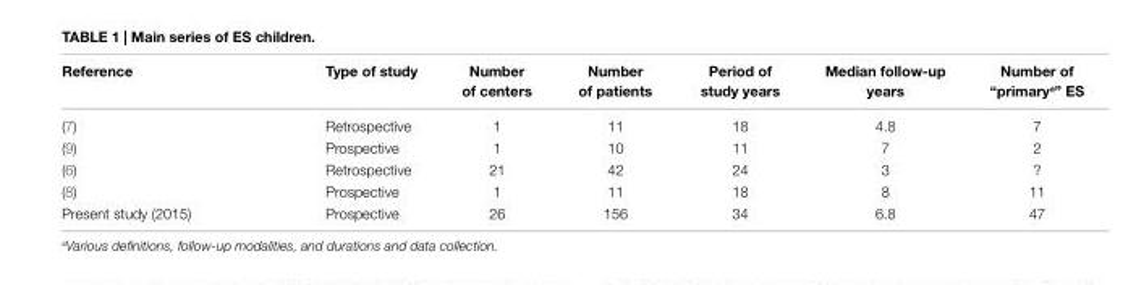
<table><thead><tr><td>reference</td><td>Type of study</td><td>number of centers</td><td>number of patients</td><td>Period of study years</td><td>Median follow-up years</td><td>number of “primarya”</td></tr></thead><tbody><tr><td>(7)</td><td>Retrospective</td><td>1</td><td>11</td><td>18</td><td>4.8</td><td>7</td></tr><tr><td>(9)</td><td>Prospective</td><td>1</td><td>10</td><td>11</td><td>7</td><td>2</td></tr><tr><td>(6)</td><td>Retrospective</td><td>21</td><td>42</td><td>24</td><td>3</td><td>?</td></tr><tr><td>(8)</td><td>Prospective</td><td>1</td><td>11</td><td>18</td><td>8</td><td>11</td></tr><tr><td>Present study (2015)</td><td>Prospective</td><td>26</td><td>156</td><td>34</td><td>6.8</td><td>47</td></tr></tbody></table>